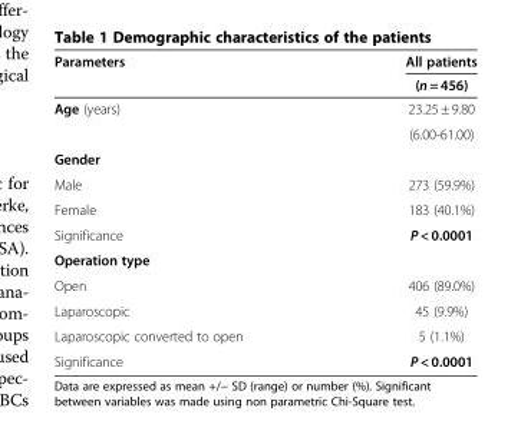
<table><thead><tr><td rowspan="2">Parameters</td><td rowspan="2">All patients (n = 456)</td></tr><tr></tr></thead><tbody><tr><td rowspan="2">Age (years)</td><td>23.25 ± 9.80</td></tr><tr><td>(6.00-61.00)</td></tr><tr><td colspan="2">Gender</td></tr><tr><td>Male</td><td>273 (59.9%)</td></tr><tr><td>Female</td><td>183 (40.1%)</td></tr><tr><td>Significance</td><td>P &lt; 0.0001</td></tr><tr><td colspan="2">Operation type</td></tr><tr><td>Open</td><td>406 (89.0%)</td></tr><tr><td>Laparoscopic</td><td>45 (9.9%)</td></tr><tr><td>Laparoscopic converted to open</td><td>5 (1.1%)</td></tr><tr><td>Significance</td><td>P &lt; 0.0001</td></tr></tbody></table>